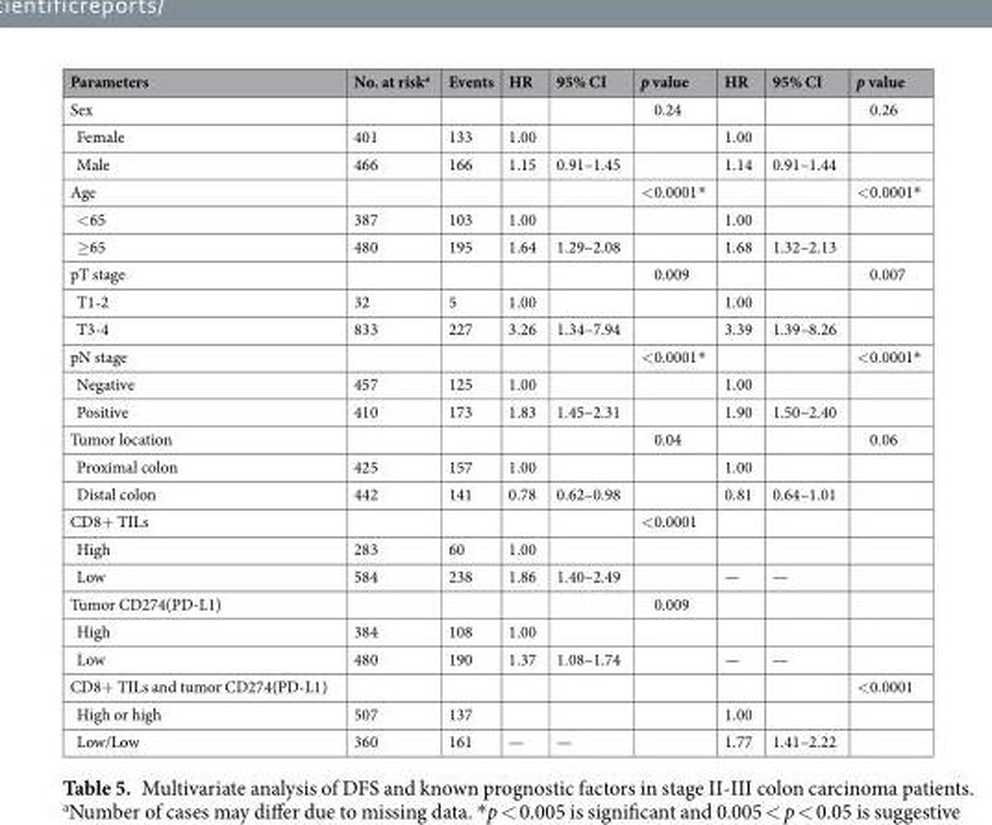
<table><thead><tr><td>Parameters</td><td>No. at risk<sup>a</sup></td><td>Events</td><td>HR</td><td>95% CI</td><td>p value</td><td>HR</td><td>95% CI</td><td>p value</td></tr></thead><tbody><tr><td>Sex</td><td></td><td></td><td></td><td></td><td>0.24</td><td></td><td></td><td>0.26</td></tr><tr><td>Female</td><td>401</td><td>133</td><td>1.00</td><td></td><td></td><td>1.00</td><td></td><td></td></tr><tr><td>Male</td><td>466</td><td>166</td><td>1.15</td><td>0.91–1.45</td><td></td><td>1.14</td><td>0.91–1.44</td><td></td></tr><tr><td>Age</td><td></td><td></td><td></td><td></td><td>&lt;0.0001*</td><td></td><td></td><td>&lt;0.0001*</td></tr><tr><td>&lt;65</td><td>387</td><td>103</td><td>1.00</td><td></td><td></td><td>1.00</td><td></td><td></td></tr><tr><td>≥65</td><td>480</td><td>195</td><td>1.64</td><td>1.29–2.08</td><td></td><td>1.68</td><td>1.32–2.13</td><td></td></tr><tr><td>pT stage</td><td></td><td></td><td></td><td></td><td>0.009</td><td></td><td></td><td>0.007</td></tr><tr><td>T1-2</td><td>32</td><td>5</td><td>1.00</td><td></td><td></td><td>1.00</td><td></td><td></td></tr><tr><td>T3-4</td><td>833</td><td>227</td><td>3.26</td><td>1.34–7.94</td><td></td><td>3.39</td><td>1.39–8.26</td><td></td></tr><tr><td>pN stage</td><td></td><td></td><td></td><td></td><td>&lt;0.0001*</td><td></td><td></td><td>&lt;0.0001*</td></tr><tr><td>Negative</td><td>457</td><td>125</td><td>1.00</td><td></td><td></td><td>1.00</td><td></td><td></td></tr><tr><td>Positive</td><td>410</td><td>173</td><td>1.83</td><td>1.45–2.31</td><td></td><td>1.90</td><td>1.50–2.40</td><td></td></tr><tr><td>Tumor location</td><td></td><td></td><td></td><td></td><td>0.04</td><td></td><td></td><td>0.06</td></tr><tr><td>Proximal colon</td><td>425</td><td>157</td><td>1.00</td><td></td><td></td><td>1.00</td><td></td><td></td></tr><tr><td>Distal colon</td><td>442</td><td>141</td><td>0.78</td><td>0.62–0.98</td><td></td><td>0.81</td><td>0.64–1.01</td><td></td></tr><tr><td>CD8+ TILs</td><td></td><td></td><td></td><td></td><td>&lt;0.0001</td><td></td><td></td><td></td></tr><tr><td>High</td><td>283</td><td>60</td><td>1.00</td><td></td><td></td><td></td><td></td><td></td></tr><tr><td>Low</td><td>584</td><td>238</td><td>1.86</td><td>1.40–2.49</td><td></td><td>—</td><td>—</td><td></td></tr><tr><td>Tumor CD274(PD-L1)</td><td></td><td></td><td></td><td></td><td>0.009</td><td></td><td></td><td></td></tr><tr><td>High</td><td>384</td><td>108</td><td>1.00</td><td></td><td></td><td></td><td></td><td></td></tr><tr><td>Low</td><td>480</td><td>190</td><td>1.37</td><td>1.08–1.74</td><td></td><td>—</td><td>—</td><td></td></tr><tr><td>CD8+ TILs and tumor CD274(PD-L1)</td><td></td><td></td><td></td><td></td><td></td><td></td><td></td><td>&lt;0.0001</td></tr><tr><td>High or high</td><td>507</td><td>137</td><td></td><td></td><td></td><td>1.00</td><td></td><td></td></tr><tr><td>Low/Low</td><td>360</td><td>161</td><td>—</td><td>—</td><td></td><td>1.77</td><td>1.41–2.22</td><td></td></tr></tbody></table>